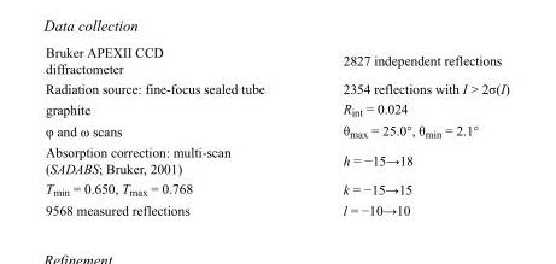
<table><tbody><tr><td>Bruker APEXII CCD diffractometer</td><td>2827 independent reflections</td></tr><tr><td>Radiation source: fine-focus sealed tube</td><td>2354 reflections with I &gt; 2σ(I)</td></tr><tr><td>graphite</td><td>R<sub>int</sub> = 0.024</td></tr><tr><td>φ and ω scans</td><td>θ<sub>max</sub> = 25.0°, θ<sub>min</sub> = 2.1°</td></tr><tr><td>Absorption correction: multi-scan (SADABS; Bruker, 2001)</td><td>h = −15→18</td></tr><tr><td>T<sub>min</sub> = 0.650, T<sub>max</sub> = 0.768</td><td>k = −15→15</td></tr><tr><td>9568 measured reflections</td><td>l = −10→10</td></tr></tbody></table>